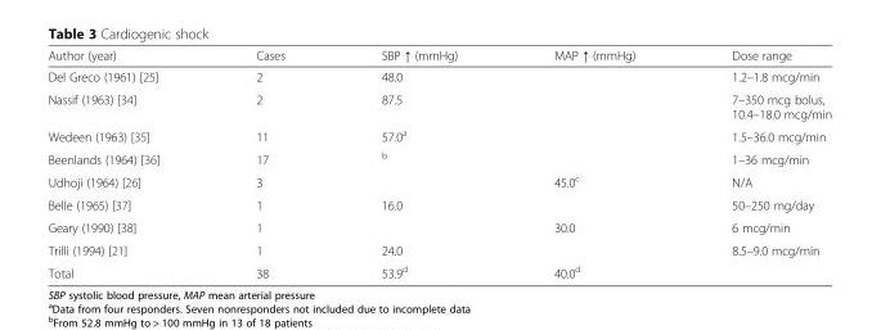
<table><thead><tr><td>Author (year)</td><td>Cases</td><td>SBP ↑ (mmHg)</td><td>MAP ↑ (mmHg)</td><td>Dose range</td></tr></thead><tbody><tr><td>Del Greco (1961) [25]</td><td>2</td><td>48.0</td><td></td><td>1.2–1.8 mcg/min</td></tr><tr><td>Nassif (1963) [34]</td><td>2</td><td>87.5</td><td></td><td>7–350 mcg bolus, 10.4–18.0 mcg/min</td></tr><tr><td>Wedeen (1963) [35]</td><td>11</td><td>57.0<sup>a</sup></td><td></td><td>1.5–36.0 mcg/min</td></tr><tr><td>Beenlands (1964) [36]</td><td>17</td><td><sup>b</sup></td><td></td><td>1–36 mcg/min</td></tr><tr><td>Udhoji (1964) [26]</td><td>3</td><td></td><td>45.0<sup>c</sup></td><td>N/A</td></tr><tr><td>Belle (1965) [37]</td><td>1</td><td>16.0</td><td></td><td>50–250 mg/day</td></tr><tr><td>Geary (1990) [38]</td><td>1</td><td></td><td>30.0</td><td>6 mcg/min</td></tr><tr><td>Trilli (1994) [21]</td><td>1</td><td>24.0</td><td></td><td>8.5–9.0 mcg/min</td></tr><tr><td>Total</td><td>38</td><td>53.9<sup>d</sup></td><td>40.0<sup>d</sup></td><td></td></tr></tbody></table>